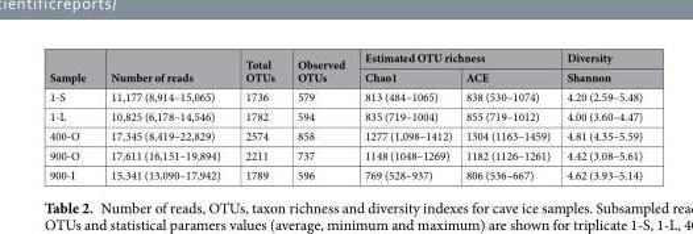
<table><thead><tr><td rowspan="2">Sample</td><td rowspan="2">Number of reads</td><td rowspan="2">Total OTUs</td><td rowspan="2">Observed OTUs</td><td colspan="2">Estimated OTU richness</td><td rowspan="2">Diversity Shannon</td></tr><tr><td>Chao1</td><td>ACE</td></tr></thead><tbody><tr><td>1-S</td><td>11,177 (8,914–15,065)</td><td>1736</td><td>579</td><td>813 (484–1065)</td><td>838 (530–1074)</td><td>4.20 (2.59–5.48)</td></tr><tr><td>1-L</td><td>10,825 (6,178–14,546)</td><td>1782</td><td>594</td><td>835 (719–1004)</td><td>855 (719–1012)</td><td>4.00 (3.60–4.47)</td></tr><tr><td>400-O</td><td>17,345 (8,419–22,829)</td><td>2574</td><td>858</td><td>1277 (1,098–1412)</td><td>1304 (1163–1459)</td><td>4.81 (4.35–5.59)</td></tr><tr><td>900-O</td><td>17,611 (16,151–19,894)</td><td>2211</td><td>737</td><td>1148 (1048–1269)</td><td>1182 (1126–1261)</td><td>4.42 (3.08–5.61)</td></tr><tr><td>900-I</td><td>15,341 (13,090–17,942)</td><td>1789</td><td>596</td><td>769 (528–937)</td><td>806 (536–667)</td><td>4.62 (3.93–5.14)</td></tr></tbody></table>